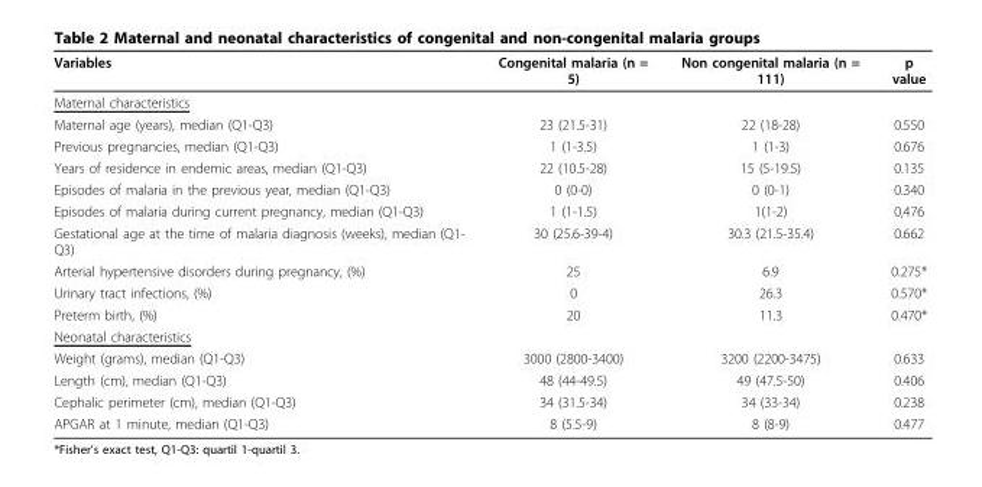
<table><thead><tr><td>Variables</td><td>Congenital malaria (n = 5)</td><td>Non congenital malaria (n = 111)</td><td>p value</td></tr></thead><tbody><tr><td colspan="4">Maternal characteristics</td></tr><tr><td>Maternal age (years), median (Q1-Q3)</td><td>23 (21.5-31)</td><td>22 (18-28)</td><td>0.550</td></tr><tr><td>Previous pregnancies, median (Q1-Q3)</td><td>1 (1-3.5)</td><td>1 (1-3)</td><td>0.676</td></tr><tr><td>Years of residence in endemic areas, median (Q1-Q3)</td><td>22 (10.5-28)</td><td>15 (5-19.5)</td><td>0.135</td></tr><tr><td>Episodes of malaria in the previous year, median (Q1-Q3)</td><td>0 (0-0)</td><td>0 (0-1)</td><td>0.340</td></tr><tr><td>Episodes of malaria during current pregnancy, median (Q1-Q3)</td><td>1 (1-1.5)</td><td>1(1-2)</td><td>0,476</td></tr><tr><td>Gestational age at the time of malaria diagnosis (weeks), median (Q1- Q3)</td><td>30 (25.6-39-4)</td><td>30.3 (21.5-35.4)</td><td>0.662</td></tr><tr><td>Arterial hypertensive disorders during pregnancy, (%)</td><td>25</td><td>6.9</td><td>0.275*</td></tr><tr><td>Urinary tract infections, (%)</td><td>0</td><td>26.3</td><td>0.570*</td></tr><tr><td>Preterm birth, (%)</td><td>20</td><td>11.3</td><td>0.470*</td></tr><tr><td colspan="4">Neonatal characteristics</td></tr><tr><td>Weight (grams), median (Q1-Q3)</td><td>3000 (2800-3400)</td><td>3200 (2200-3475)</td><td>0.633</td></tr><tr><td>Length (cm), median (Q1-Q3)</td><td>48 (44-49.5)</td><td>49 (47.5-50)</td><td>0.406</td></tr><tr><td>Cephalic perimeter (cm), median (Q1-Q3)</td><td>34 (31.5-34)</td><td>34 (33-34)</td><td>0.238</td></tr><tr><td>APGAR at 1 minute, median (Q1-Q3)</td><td>8 (5.5-9)</td><td>8 (8-9)</td><td>0.477</td></tr></tbody></table>